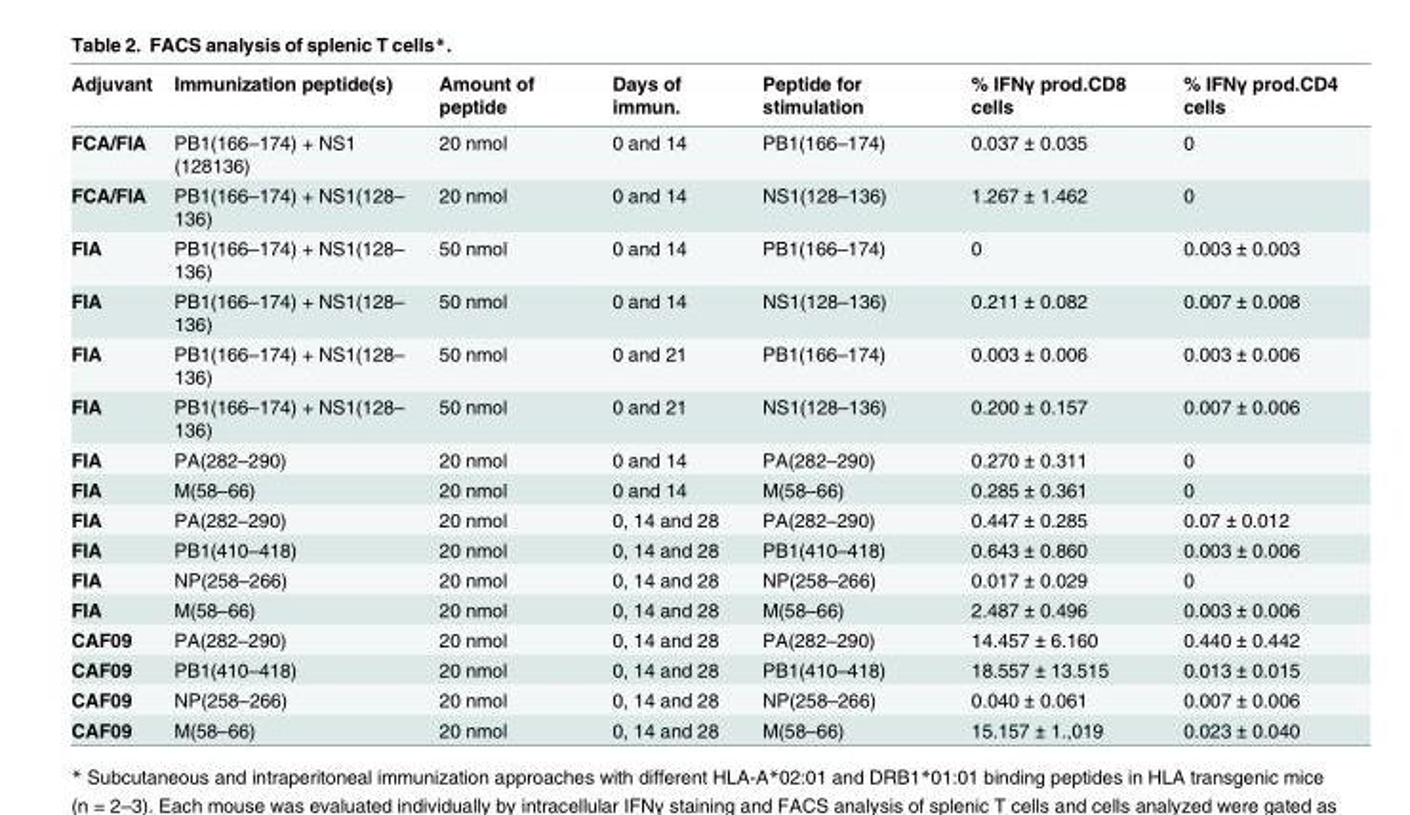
<table><thead><tr><td>Adjuvant</td><td>Immunization peptide(s)</td><td>Amount of peptide</td><td>Days of immun.</td><td>Peptide for stimulation</td><td>% IFNγ prod.CD8 cells</td><td>% IFNγ prod.CD4 cells</td></tr></thead><tbody><tr><td>FCA/FIA</td><td>PB1(166–174) + NS1 (128136)</td><td>20 nmol</td><td>0 and 14</td><td>PB1(166–174)</td><td>0.037 ± 0.035</td><td>0</td></tr><tr><td>FCA/FIA</td><td>PB1(166–174) + NS1(128– 136)</td><td>20 nmol</td><td>0 and 14</td><td>NS1(128–136)</td><td>1.267 ± 1.462</td><td>0</td></tr><tr><td>FIA</td><td>PB1(166–174) + NS1(128– 136)</td><td>50 nmol</td><td>0 and 14</td><td>PB1(166–174)</td><td>0</td><td>0.003 ± 0.003</td></tr><tr><td>FIA</td><td>PB1(166–174) + NS1(128– 136)</td><td>50 nmol</td><td>0 and 14</td><td>NS1(128–136)</td><td>0.211 ± 0.082</td><td>0.007 ± 0.008</td></tr><tr><td>FIA</td><td>PB1(166–174) + NS1(128– 136)</td><td>50 nmol</td><td>0 and 21</td><td>PB1(166–174)</td><td>0.003 ± 0.006</td><td>0.003 ± 0.006</td></tr><tr><td>FIA</td><td>PB1(166–174) + NS1(128– 136)</td><td>50 nmol</td><td>0 and 21</td><td>NS1(128–136)</td><td>0.200 ± 0.157</td><td>0.007 ± 0.006</td></tr><tr><td>FIA</td><td>PA(282–290)</td><td>20 nmol</td><td>0 and 14</td><td>PA(282–290)</td><td>0.270 ± 0.311</td><td>0</td></tr><tr><td>FIA</td><td>M(58–66)</td><td>20 nmol</td><td>0 and 14</td><td>M(58–66)</td><td>0.285 ± 0.361</td><td>0</td></tr><tr><td>FIA</td><td>PA(282–290)</td><td>20 nmol</td><td>0, 14 and 28</td><td>PA(282–290)</td><td>0.447 ± 0.285</td><td>0.07 ± 0.012</td></tr><tr><td>FIA</td><td>PB1(410–418)</td><td>20 nmol</td><td>0, 14 and 28</td><td>PB1(410–418)</td><td>0.643 ± 0.860</td><td>0.003 ± 0.006</td></tr><tr><td>FIA</td><td>NP(258–266)</td><td>20 nmol</td><td>0, 14 and 28</td><td>NP(258–266)</td><td>0.017 ± 0.029</td><td>0</td></tr><tr><td>FIA</td><td>M(58–66)</td><td>20 nmol</td><td>0, 14 and 28</td><td>M(58–66)</td><td>2.487 ± 0.496</td><td>0.003 ± 0.006</td></tr><tr><td>CAF09</td><td>PA(282–290)</td><td>20 nmol</td><td>0, 14 and 28</td><td>PA(282–290)</td><td>14.457 ± 6.160</td><td>0.440 ± 0.442</td></tr><tr><td>CAF09</td><td>PB1(410–418)</td><td>20 nmol</td><td>0, 14 and 28</td><td>PB1(410–418)</td><td>18.557 ± 13.515</td><td>0.013 ± 0.015</td></tr><tr><td>CAF09</td><td>NP(258–266)</td><td>20 nmol</td><td>0, 14 and 28</td><td>NP(258–266)</td><td>0.040 ± 0.061</td><td>0.007 ± 0.006</td></tr><tr><td>CAF09</td><td>M(58–66)</td><td>20 nmol</td><td>0, 14 and 28</td><td>M(58–66)</td><td>15.157 ± 1.,019</td><td>0.023 ± 0.040</td></tr></tbody></table>